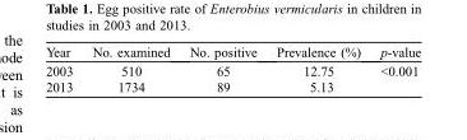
<table><thead><tr><td>Year</td><td>No. examined</td><td>No. positive</td><td>Prevalence (%)</td><td>p-value</td></tr></thead><tbody><tr><td>2003</td><td>510</td><td>65</td><td>12.75</td><td rowspan="2">&lt;0.001</td></tr><tr><td>2013</td><td>1734</td><td>89</td><td>5.13</td></tr></tbody></table>